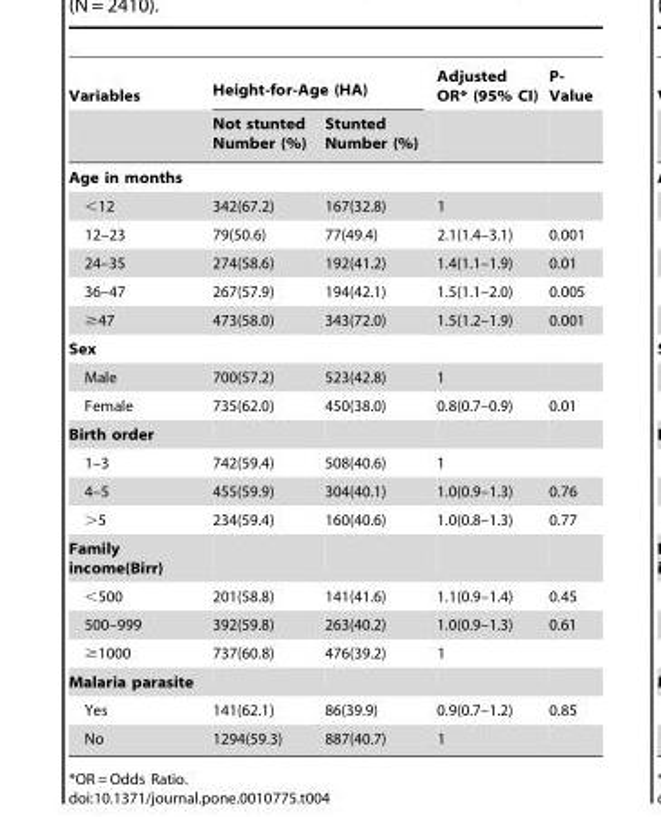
<table><thead><tr><td rowspan="2">Variables</td><td colspan="2">Height-for-Age (HA)</td><td rowspan="2">Adjusted OR* (95% CI)</td><td rowspan="2">P- Value</td></tr><tr><td>Not stunted Number (%)</td><td>Stunted Number (%)</td></tr></thead><tbody><tr><td colspan="5">Age in months</td></tr><tr><td>&lt;12</td><td>342(67.2)</td><td>167(32.8)</td><td>1</td><td></td></tr><tr><td>12–23</td><td>79(50.6)</td><td>77(49.4)</td><td>2.1(1.4–3.1)</td><td>0.001</td></tr><tr><td>24–35</td><td>274(58.6)</td><td>192(41.2)</td><td>1.4(1.1–1.9)</td><td>0.01</td></tr><tr><td>36–47</td><td>267(57.9)</td><td>194(42.1)</td><td>1.5(1.1–2.0)</td><td>0.005</td></tr><tr><td>≥47</td><td>473(58.0)</td><td>343(72.0)</td><td>1.5(1.2–1.9)</td><td>0.001</td></tr><tr><td colspan="5">Sex</td></tr><tr><td>Male</td><td>700(57.2)</td><td>523(42.8)</td><td>1</td><td></td></tr><tr><td>Female</td><td>735(62.0)</td><td>450(38.0)</td><td>0.8(0.7–0.9)</td><td>0.01</td></tr><tr><td colspan="5">Birth order</td></tr><tr><td>1–3</td><td>742(59.4)</td><td>508(40.6)</td><td>1</td><td></td></tr><tr><td>4–5</td><td>455(59.9)</td><td>304(40.1)</td><td>1.0(0.9–1.3)</td><td>0.76</td></tr><tr><td>&gt;5</td><td>234(59.4)</td><td>160(40.6)</td><td>1.0(0.8–1.3)</td><td>0.77</td></tr><tr><td colspan="5">Family income(Birr)</td></tr><tr><td>&lt;500</td><td>201(58.8)</td><td>141(41.6)</td><td>1.1(0.9–1.4)</td><td>0.45</td></tr><tr><td>500–999</td><td>392(59.8)</td><td>263(40.2)</td><td>1.0(0.9–1.3)</td><td>0.61</td></tr><tr><td>≥1000</td><td>737(60.8)</td><td>476(39.2)</td><td>1</td><td></td></tr><tr><td colspan="5">Malaria parasite</td></tr><tr><td>Yes</td><td>141(62.1)</td><td>86(39.9)</td><td>0.9(0.7–1.2)</td><td>0.85</td></tr><tr><td>No</td><td>1294(59.3)</td><td>887(40.7)</td><td>1</td><td></td></tr></tbody></table>